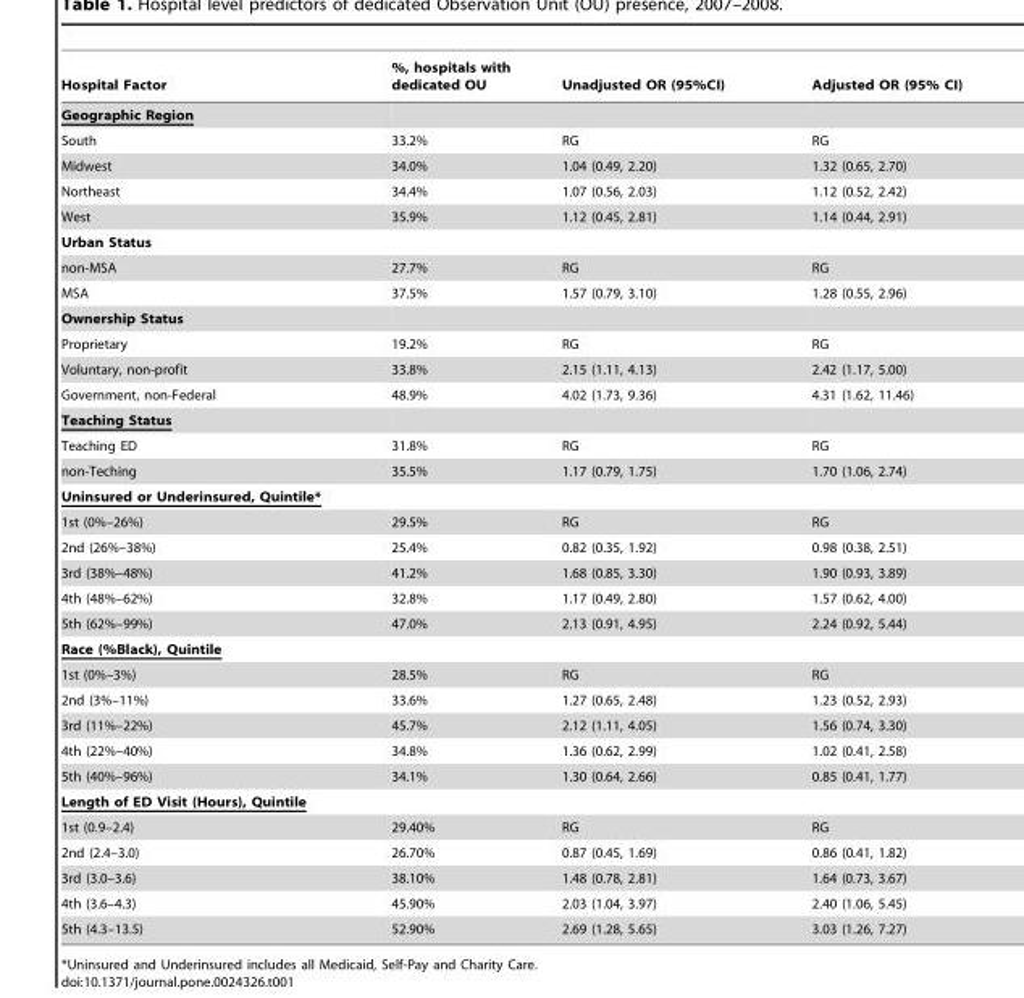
<table><thead><tr><td>Hospital Factor</td><td>%, hospitals with dedicated OU</td><td>Unadjusted OR (95%CI)</td><td>Adjusted OR (95% CI)</td></tr></thead><tbody><tr><td colspan="4">Geographic Region</td></tr><tr><td>South</td><td>33.2%</td><td>RG</td><td>RG</td></tr><tr><td>Midwest</td><td>34.0%</td><td>1.04 (0.49, 2.20)</td><td>1.32 (0.65, 2.70)</td></tr><tr><td>Northeast</td><td>34.4%</td><td>1.07 (0.56, 2.03)</td><td>1.12 (0.52, 2.42)</td></tr><tr><td>West</td><td>35.9%</td><td>1.12 (0.45, 2.81)</td><td>1.14 (0.44, 2.91)</td></tr><tr><td colspan="4">Urban Status</td></tr><tr><td>non-MSA</td><td>27.7%</td><td>RG</td><td>RG</td></tr><tr><td>MSA</td><td>37.5%</td><td>1.57 (0.79, 3.10)</td><td>1.28 (0.55, 2.96)</td></tr><tr><td colspan="4">Ownership Status</td></tr><tr><td>Proprietary</td><td>19.2%</td><td>RG</td><td>RG</td></tr><tr><td>Voluntary, non-profit</td><td>33.8%</td><td>2.15 (1.11, 4.13)</td><td>2.42 (1.17, 5.00)</td></tr><tr><td>Government, non-Federal</td><td>48.9%</td><td>4.02 (1.73, 9.36)</td><td>4.31 (1.62, 11.46)</td></tr><tr><td colspan="4">Teaching Status</td></tr><tr><td>Teaching ED</td><td>31.8%</td><td>RG</td><td>RG</td></tr><tr><td>non-Teching</td><td>35.5%</td><td>1.17 (0.79, 1.75)</td><td>1.70 (1.06, 2.74)</td></tr><tr><td colspan="4">Uninsured or Underinsured, Quintile*</td></tr><tr><td>1st (0%–26%)</td><td>29.5%</td><td>RG</td><td>RG</td></tr><tr><td>2nd (26%–38%)</td><td>25.4%</td><td>0.82 (0.35, 1.92)</td><td>0.98 (0.38, 2.51)</td></tr><tr><td>3rd (38%–48%)</td><td>41.2%</td><td>1.68 (0.85, 3.30)</td><td>1.90 (0.93, 3.89)</td></tr><tr><td>4th (48%–62%)</td><td>32.8%</td><td>1.17 (0.49, 2.80)</td><td>1.57 (0.62, 4.00)</td></tr><tr><td>5th (62%–99%)</td><td>47.0%</td><td>2.13 (0.91, 4.95)</td><td>2.24 (0.92, 5.44)</td></tr><tr><td colspan="4">Race (%Black), Quintile</td></tr><tr><td>1st (0%–3%)</td><td>28.5%</td><td>RG</td><td>RG</td></tr><tr><td>2nd (3%–11%)</td><td>33.6%</td><td>1.27 (0.65, 2.48)</td><td>1.23 (0.52, 2.93)</td></tr><tr><td>3rd (11%–22%)</td><td>45.7%</td><td>2.12 (1.11, 4.05)</td><td>1.56 (0.74, 3.30)</td></tr><tr><td>4th (22%–40%)</td><td>34.8%</td><td>1.36 (0.62, 2.99)</td><td>1.02 (0.41, 2.58)</td></tr><tr><td>5th (40%–96%)</td><td>34.1%</td><td>1.30 (0.64, 2.66)</td><td>0.85 (0.41, 1.77)</td></tr><tr><td colspan="4">Length of ED Visit (Hours), Quintile</td></tr><tr><td>1st (0.9–2.4)</td><td>29.40%</td><td>RG</td><td>RG</td></tr><tr><td>2nd (2.4–3.0)</td><td>26.70%</td><td>0.87 (0.45, 1.69)</td><td>0.86 (0.41, 1.82)</td></tr><tr><td>3rd (3.0–3.6)</td><td>38.10%</td><td>1.48 (0.78, 2.81)</td><td>1.64 (0.73, 3.67)</td></tr><tr><td>4th (3.6–4.3)</td><td>45.90%</td><td>2.03 (1.04, 3.97)</td><td>2.40 (1.06, 5.45)</td></tr><tr><td>5th (4.3–13.5)</td><td>52.90%</td><td>2.69 (1.28, 5.65)</td><td>3.03 (1.26, 7.27)</td></tr></tbody></table>